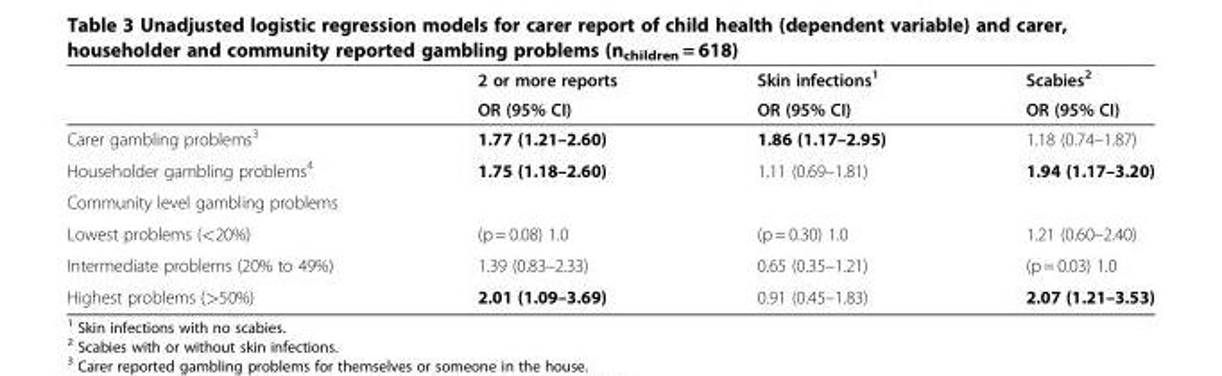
<table><thead><tr><td rowspan="2"></td><td rowspan="2">2 or more reports OR (95% CI)</td><td rowspan="2">Skin infections1 OR (95% CI)</td><td rowspan="2">Scabies<sup>2</sup> OR (95% CI)</td></tr><tr></tr></thead><tbody><tr><td>Carer gambling problems<sup>3</sup></td><td>1.77 (1.21–2.60)</td><td>1.86 (1.17–2.95)</td><td>1.18 (0.74–1.87)</td></tr><tr><td>Householder gambling problems<sup>4</sup></td><td>1.75 (1.18–2.60)</td><td>1.11 (0.69–1.81)</td><td>1.94 (1.17–3.20)</td></tr><tr><td colspan="4">Community level gambling problems</td></tr><tr><td>Lowest problems (&lt;20%)</td><td>(p = 0.08) 1.0</td><td>(p = 0.30) 1.0</td><td>1.21 (0.60–2.40)</td></tr><tr><td>Intermediate problems (20% to 49%)</td><td>1.39 (0.83–2.33)</td><td>0.65 (0.35–1.21)</td><td>(p = 0.03) 1.0</td></tr><tr><td>Highest problems (&gt;50%)</td><td>2.01 (1.09–3.69)</td><td>0.91 (0.45–1.83)</td><td>2.07 (1.21–3.53)</td></tr></tbody></table>